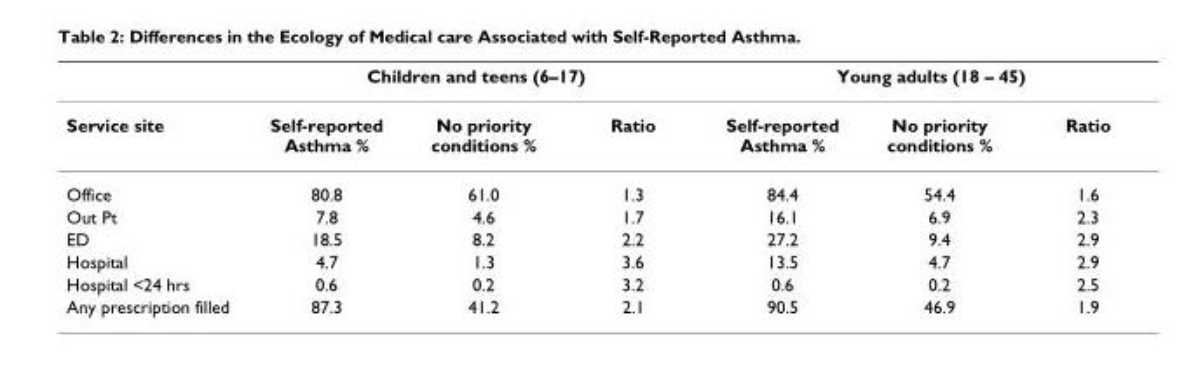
<table><thead><tr><td rowspan="2">Service site</td><td colspan="3">Children and teens (6–17)</td><td colspan="3">Young adults (18 – 45)</td></tr><tr><td>Self-reported Asthma %</td><td>No priority conditions %</td><td>Ratio</td><td>Self-reported Asthma %</td><td>No priority conditions %</td><td>Ratio</td></tr></thead><tbody><tr><td>Office</td><td>80.8</td><td>61.0</td><td>1.3</td><td>84.4</td><td>54.4</td><td>1.6</td></tr><tr><td>Out Pt</td><td>7.8</td><td>4.6</td><td>1.7</td><td>16.1</td><td>6.9</td><td>2.3</td></tr><tr><td>ED</td><td>18.5</td><td>8.2</td><td>2.2</td><td>27.2</td><td>9.4</td><td>2.9</td></tr><tr><td>Hospital</td><td>4.7</td><td>1.3</td><td>3.6</td><td>13.5</td><td>4.7</td><td>2.9</td></tr><tr><td>Hospital &lt;24 hrs</td><td>0.6</td><td>0.2</td><td>3.2</td><td>0.6</td><td>0.2</td><td>2.5</td></tr><tr><td>Any prescription filled</td><td>87.3</td><td>41.2</td><td>2.1</td><td>90.5</td><td>46.9</td><td>1.9</td></tr></tbody></table>